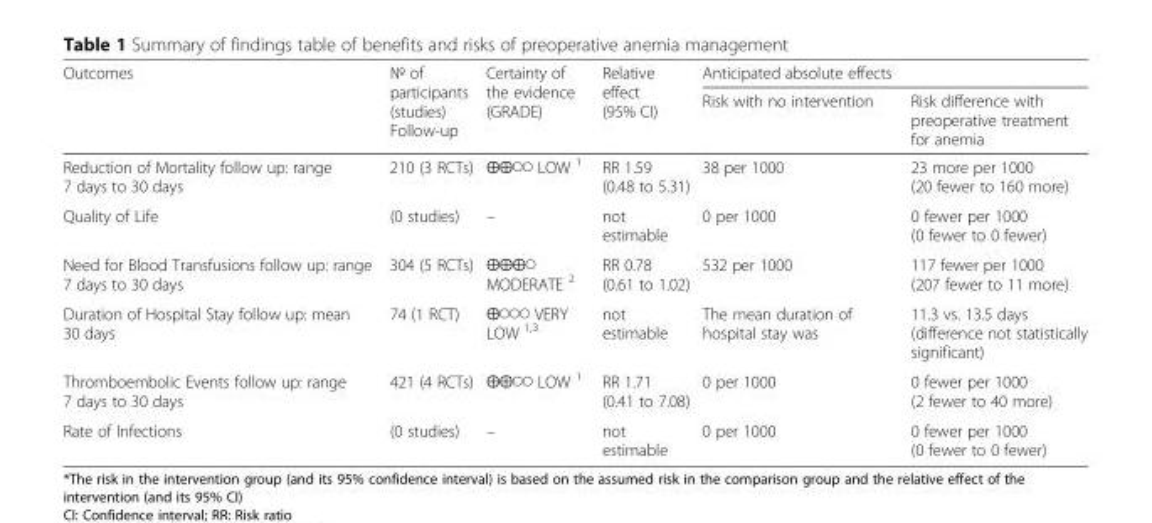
<table><thead><tr><td rowspan="2">Outcomes</td><td rowspan="2">№ of participants (studies) Follow-up</td><td rowspan="2">Certainty of the evidence (GRADE)</td><td rowspan="2">Relative effect (95% CI)</td><td colspan="2">Anticipated absolute effects</td></tr><tr><td>Risk with no intervention</td><td>Risk difference with preoperative treatment for anemia</td></tr></thead><tbody><tr><td>Reduction of Mortality follow up: range 7 days to 30 days</td><td>210 (3 RCTs)</td><td>⨁⨁◯◯ LOW <sup>1</sup></td><td>RR 1.59 (0.48 to 5.31)</td><td>38 per 1000</td><td>23 more per 1000 (20 fewer to 160 more)</td></tr><tr><td>Quality of Life</td><td>(0 studies)</td><td>–</td><td>not estimable</td><td>0 per 1000</td><td>0 fewer per 1000 (0 fewer to 0 fewer)</td></tr><tr><td>Need for Blood Transfusions follow up: range 7 days to 30 days</td><td>304 (5 RCTs)</td><td>⨁⨁⨁◯ MODERATE <sup>2</sup></td><td>RR 0.78 (0.61 to 1.02)</td><td>532 per 1000</td><td>117 fewer per 1000 (207 fewer to 11 more)</td></tr><tr><td>Duration of Hospital Stay follow up: mean 30 days</td><td>74 (1 RCT)</td><td>⨁◯◯◯ VERY LOW <sup>1,3</sup></td><td>not estimable</td><td>The mean duration of hospital stay was</td><td>11.3 vs. 13.5 days (difference not statistically significant)</td></tr><tr><td>Thromboembolic Events follow up: range 7 days to 30 days</td><td>421 (4 RCTs)</td><td>⨁⨁◯◯ LOW <sup>1</sup></td><td>RR 1.71 (0.41 to 7.08)</td><td>0 per 1000</td><td>0 fewer per 1000 (2 fewer to 40 more)</td></tr><tr><td>Rate of Infections</td><td>(0 studies)</td><td>–</td><td>not estimable</td><td>0 per 1000</td><td>0 fewer per 1000 (0 fewer to 0 fewer)</td></tr></tbody></table>